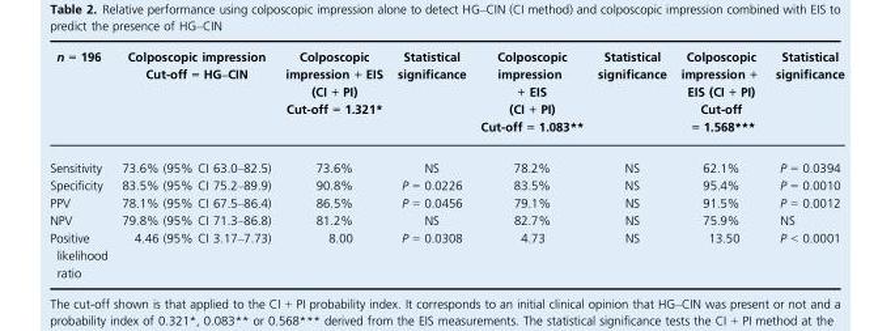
<table><thead><tr><td>n = 196</td><td>Colposcopic impression Cut-off = HG–CIN</td><td>Colposcopic impression + EIS (CI + PI) Cut-off = 1.321*</td><td>Statistical significance</td><td>Colposcopic impression + EIS (CI + PI) Cut-off = 1.083**</td><td>Statistical significance</td><td>Colposcopic impression + EIS (CI + PI) Cut-off = 1.568***</td><td>Statistical significance</td></tr></thead><tbody><tr><td>Sensitivity</td><td>73.6% (95% CI 63.0–82.5)</td><td>73.6%</td><td>NS</td><td>78.2%</td><td>NS</td><td>62.1%</td><td>P = 0.0394</td></tr><tr><td>Specificity</td><td>83.5% (95% CI 75.2–89.9)</td><td>90.8%</td><td>P = 0.0226</td><td>83.5%</td><td>NS</td><td>95.4%</td><td>P = 0.0010</td></tr><tr><td>PPV</td><td>78.1% (95% CI 67.5–86.4)</td><td>86.5%</td><td>P = 0.0456</td><td>79.1%</td><td>NS</td><td>91.5%</td><td>P = 0.0012</td></tr><tr><td>NPV</td><td>79.8% (95% CI 71.3–86.8)</td><td>81.2%</td><td>NS</td><td>82.7%</td><td>NS</td><td>75.9%</td><td>NS</td></tr><tr><td>Positive likelihood ratio</td><td>4.46 (95% CI 3.17–7.73)</td><td>8.00</td><td>P = 0.0308</td><td>4.73</td><td>NS</td><td>13.50</td><td>P &lt; 0.0001</td></tr></tbody></table>